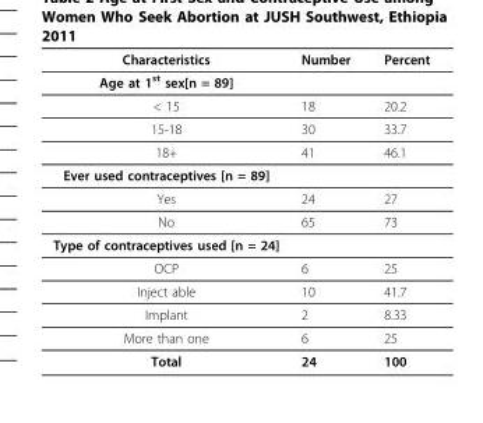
<table><thead><tr><td>Characteristics</td><td>Number</td><td>Percent</td></tr></thead><tbody><tr><td colspan="3">Age at 1<sup>st</sup> sex[n = 89]</td></tr><tr><td>&lt; 15</td><td>18</td><td>20.2</td></tr><tr><td>15-18</td><td>30</td><td>33.7</td></tr><tr><td>18+</td><td>41</td><td>46.1</td></tr><tr><td colspan="3">Ever used contraceptives [n = 89]</td></tr><tr><td>Yes</td><td>24</td><td>27</td></tr><tr><td>No</td><td>65</td><td>73</td></tr><tr><td colspan="3">Type of contraceptives used [n = 24]</td></tr><tr><td>OCP</td><td>6</td><td>25</td></tr><tr><td>Inject able</td><td>10</td><td>41.7</td></tr><tr><td>Implant</td><td>2</td><td>8.33</td></tr><tr><td>More than one</td><td>6</td><td>25</td></tr><tr><td>Total</td><td>24</td><td>100</td></tr></tbody></table>